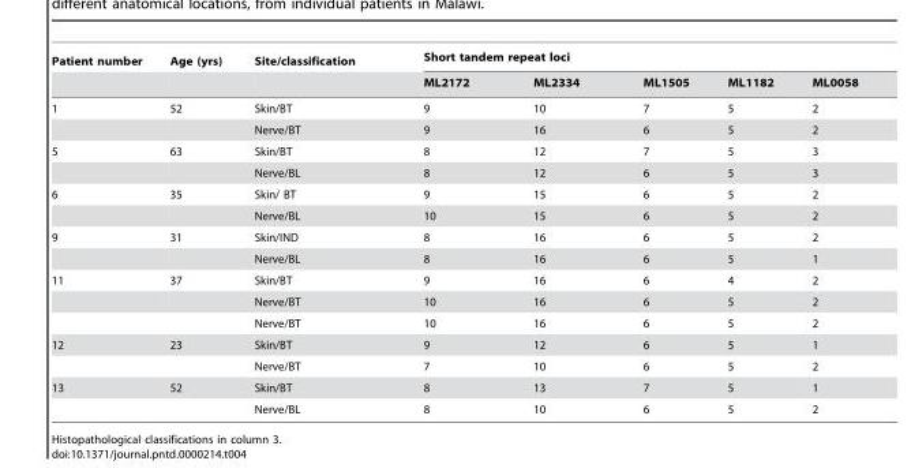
<table><thead><tr><td rowspan="2">Patient number</td><td rowspan="2">Age (yrs)</td><td rowspan="2">Site/classification</td><td colspan="5">Short tandem repeat loci</td></tr><tr><td>ML2172</td><td>ML2334</td><td>ML1505</td><td>ML1182</td><td>ML0058</td></tr></thead><tbody><tr><td rowspan="2">1</td><td>52</td><td>Skin/BT</td><td>9</td><td>10</td><td>7</td><td>5</td><td>2</td></tr><tr><td></td><td>Nerve/BT</td><td>9</td><td>16</td><td>6</td><td>5</td><td>2</td></tr><tr><td rowspan="2">5</td><td>63</td><td>Skin/BT</td><td>8</td><td>12</td><td>7</td><td>5</td><td>3</td></tr><tr><td></td><td>Nerve/BL</td><td>8</td><td>12</td><td>6</td><td>5</td><td>3</td></tr><tr><td rowspan="2">6</td><td>35</td><td>Skin/ BT</td><td>9</td><td>15</td><td>6</td><td>5</td><td>2</td></tr><tr><td></td><td>Nerve/BL</td><td>10</td><td>15</td><td>6</td><td>5</td><td>2</td></tr><tr><td rowspan="2">9</td><td>31</td><td>Skin/IND</td><td>8</td><td>16</td><td>6</td><td>5</td><td>2</td></tr><tr><td></td><td>Nerve/BL</td><td>8</td><td>16</td><td>6</td><td>5</td><td>1</td></tr><tr><td rowspan="3">11</td><td>37</td><td>Skin/BT</td><td>9</td><td>16</td><td>6</td><td>4</td><td>2</td></tr><tr><td></td><td>Nerve/BT</td><td>10</td><td>16</td><td>6</td><td>5</td><td>2</td></tr><tr><td></td><td>Nerve/BT</td><td>10</td><td>16</td><td>6</td><td>5</td><td>2</td></tr><tr><td rowspan="2">12</td><td>23</td><td>Skin/BT</td><td>9</td><td>12</td><td>6</td><td>5</td><td>1</td></tr><tr><td></td><td>Nerve/BT</td><td>7</td><td>10</td><td>6</td><td>5</td><td>2</td></tr><tr><td rowspan="2">13</td><td>52</td><td>Skin/BT</td><td>8</td><td>13</td><td>7</td><td>5</td><td>1</td></tr><tr><td></td><td>Nerve/BL</td><td>8</td><td>10</td><td>6</td><td>5</td><td>2</td></tr></tbody></table>